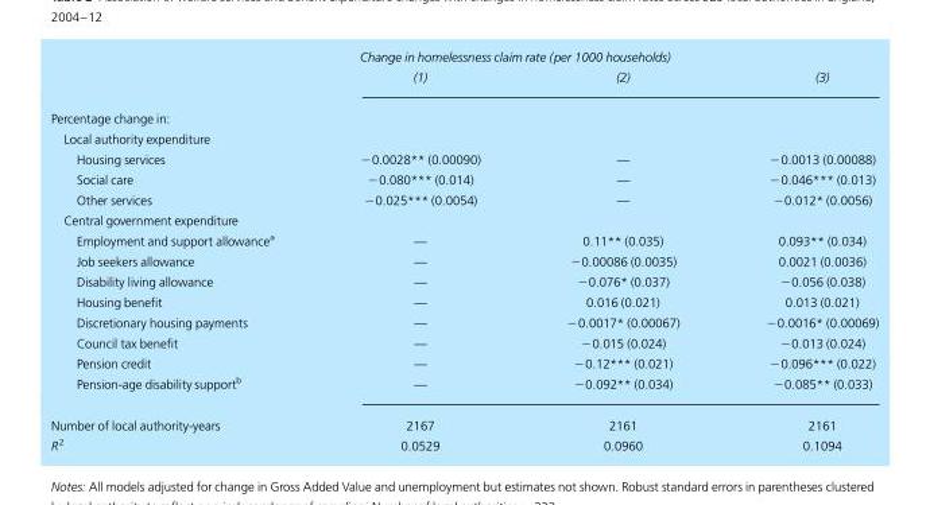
<table><thead><tr><td rowspan="2"></td><td colspan="3">Change in homelessness claim rate (per 1000 households)</td></tr><tr><td>(1)</td><td>(2)</td><td>(3)</td></tr></thead><tbody><tr><td colspan="4">Percentage change in:</td></tr><tr><td colspan="4">Local authority expenditure</td></tr><tr><td>Housing services</td><td>−0.0028** (0.00090)</td><td>—</td><td>−0.0013 (0.00088)</td></tr><tr><td>Social care</td><td>−0.080*** (0.014)</td><td>—</td><td>−0.046*** (0.013)</td></tr><tr><td>Other services</td><td>−0.025*** (0.0054)</td><td>—</td><td>−0.012* (0.0056)</td></tr><tr><td colspan="4">Central government expenditure</td></tr><tr><td>Employment and support allowance<sup>a</sup></td><td>—</td><td>0.11** (0.035)</td><td>0.093** (0.034)</td></tr><tr><td>Job seekers allowance</td><td>—</td><td>−0.00086 (0.0035)</td><td>0.0021 (0.0036)</td></tr><tr><td>Disability living allowance</td><td>—</td><td>−0.076* (0.037)</td><td>−0.056 (0.038)</td></tr><tr><td>Housing benefit</td><td>—</td><td>0.016 (0.021)</td><td>0.013 (0.021)</td></tr><tr><td>Discretionary housing payments</td><td>—</td><td>−0.0017* (0.00067)</td><td>−0.0016* (0.00069)</td></tr><tr><td>Council tax benefit</td><td>—</td><td>−0.015 (0.024)</td><td>−0.013 (0.024)</td></tr><tr><td>Pension credit</td><td>—</td><td>−0.12*** (0.021)</td><td>−0.096*** (0.022)</td></tr><tr><td>Pension-age disability support<sup>b</sup></td><td>—</td><td>−0.092** (0.034)</td><td>−0.085** (0.033)</td></tr><tr><td>Number of local authority-years</td><td>2167</td><td>2161</td><td>2161</td></tr><tr><td>R<sup>2</sup></td><td>0.0529</td><td>0.0960</td><td>0.1094</td></tr></tbody></table>